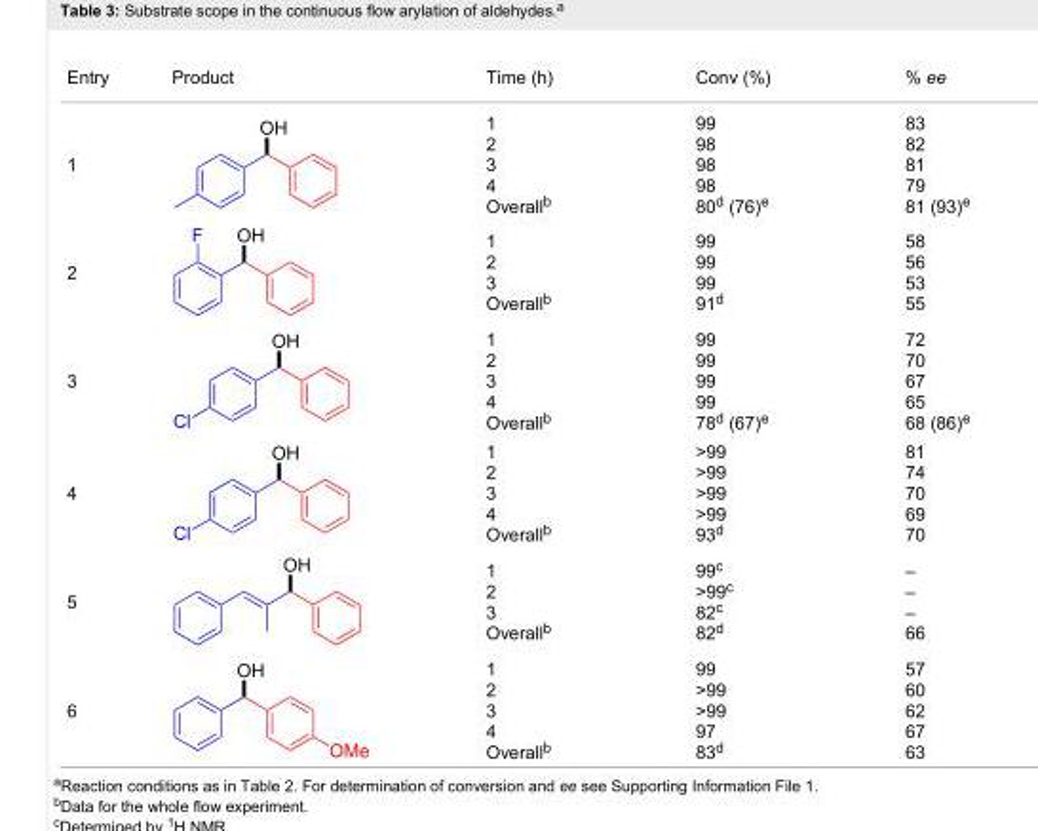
<table><tbody><tr><td>Entry</td><td>Product</td><td>Time (h)</td><td>Conv (%)</td><td>% ee</td></tr><tr><td>1</td><td></td><td>1 2 3 4 Overall<sup>b</sup></td><td>99 98 98 98 80<sup>d</sup> (76)<sup>e</sup></td><td>83 82 81 79 81 (93)<sup>e</sup></td></tr><tr><td>2</td><td></td><td>1 2 3 Overall<sup>b</sup></td><td>99 99 99 91<sup>d</sup></td><td>58 56 53 55</td></tr><tr><td>3</td><td></td><td>1 2 3 4 Overall<sup>b</sup></td><td>99 99 99 99 78<sup>d</sup> (67)<sup>e</sup></td><td>72 70 67 65 68 (86)<sup>e</sup></td></tr><tr><td>4</td><td></td><td>1 2 3 4 Overall<sup>b</sup></td><td>&gt;99 &gt;99 &gt;99 &gt;99 93<sup>d</sup></td><td>81 74 70 69 70</td></tr><tr><td>5</td><td></td><td>1 2 3 Overall<sup>b</sup></td><td>99<sup>c</sup> &gt;99<sup>c</sup> 82<sup>c</sup> 82<sup>d</sup></td><td>– – – 66</td></tr><tr><td>6</td><td></td><td>1 2 3 4 Overall<sup>b</sup></td><td>99 &gt;99 &gt;99 97 83<sup>d</sup></td><td>57 60 62 67 63</td></tr></tbody></table>